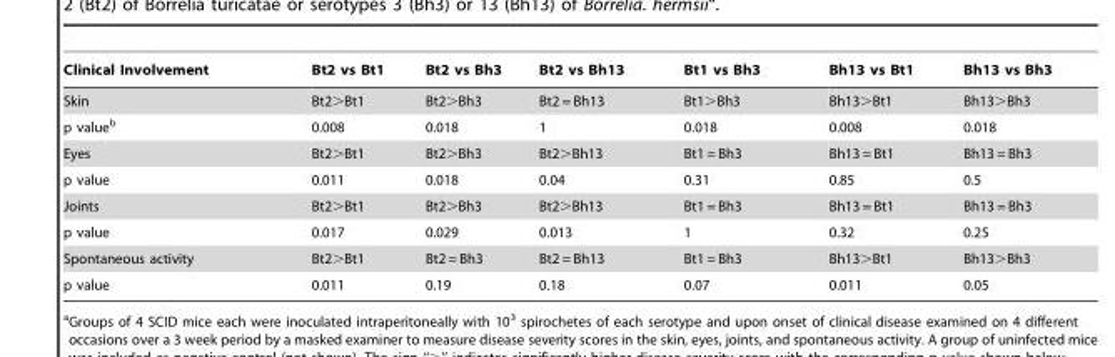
<table><thead><tr><td>Clinical Involvement</td><td>Bt2 vs Bt1</td><td>Bt2 vs Bh3</td><td>Bt2 vs Bh13</td><td>Bt1 vs Bh3</td><td>Bh13 vs Bt1</td><td>Bh13 vs Bh3</td></tr></thead><tbody><tr><td>Skin</td><td>Bt2&gt;Bt1</td><td>Bt2&gt;Bh3</td><td>Bt2 = Bh13</td><td>Bt1&gt;Bh3</td><td>Bh13&gt;Bt1</td><td>Bh13&gt;Bh3</td></tr><tr><td>p value<sup>b</sup></td><td>0.008</td><td>0.018</td><td>1</td><td>0.018</td><td>0.008</td><td>0.018</td></tr><tr><td>Eyes</td><td>Bt2&gt;Bt1</td><td>Bt2&gt;Bh3</td><td>Bt2&gt;Bh13</td><td>Bt1 = Bh3</td><td>Bh13 = Bt1</td><td>Bh13 = Bh3</td></tr><tr><td>p value</td><td>0.011</td><td>0.018</td><td>0.04</td><td>0.31</td><td>0.85</td><td>0.5</td></tr><tr><td>Joints</td><td>Bt2&gt;Bt1</td><td>Bt2&gt;Bh3</td><td>Bt2&gt;Bh13</td><td>Bt1 = Bh3</td><td>Bh13 = Bt1</td><td>Bh13 = Bh3</td></tr><tr><td>p value</td><td>0.017</td><td>0.029</td><td>0.013</td><td>1</td><td>0.32</td><td>0.25</td></tr><tr><td>Spontaneous activity</td><td>Bt2&gt;Bt1</td><td>Bt2 = Bh3</td><td>Bt2 = Bh13</td><td>Bt1 = Bh3</td><td>Bh13&gt;Bt1</td><td>Bh13&gt;Bh3</td></tr><tr><td>p value</td><td>0.011</td><td>0.19</td><td>0.18</td><td>0.07</td><td>0.011</td><td>0.05</td></tr></tbody></table>